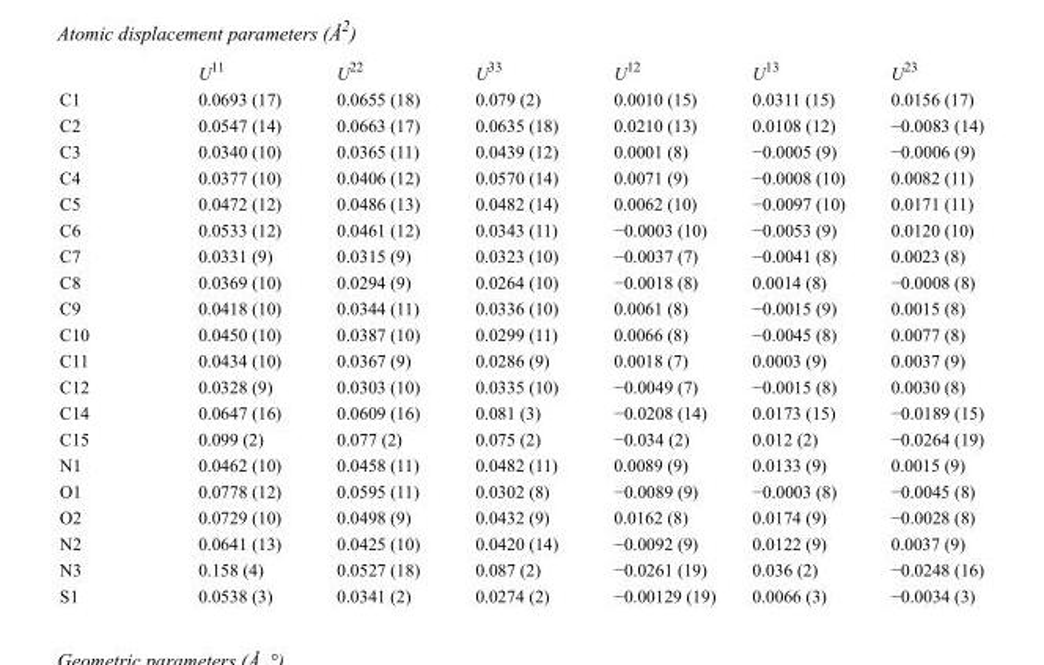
<table><thead><tr><td></td><td>U<sup>11</sup></td><td>U<sup>22</sup></td><td>U<sup>33</sup></td><td>U<sup>12</sup></td><td>U<sup>13</sup></td><td>U<sup>23</sup></td></tr></thead><tbody><tr><td>C1</td><td>0.0693 (17)</td><td>0.0655 (18)</td><td>0.079 (2)</td><td>0.0010 (15)</td><td>0.0311 (15)</td><td>0.0156 (17)</td></tr><tr><td>C2</td><td>0.0547 (14)</td><td>0.0663 (17)</td><td>0.0635 (18)</td><td>0.0210 (13)</td><td>0.0108 (12)</td><td>−0.0083 (14)</td></tr><tr><td>C3</td><td>0.0340 (10)</td><td>0.0365 (11)</td><td>0.0439 (12)</td><td>0.0001 (8)</td><td>−0.0005 (9)</td><td>−0.0006 (9)</td></tr><tr><td>C4</td><td>0.0377 (10)</td><td>0.0406 (12)</td><td>0.0570 (14)</td><td>0.0071 (9)</td><td>−0.0008 (10)</td><td>0.0082 (11)</td></tr><tr><td>C5</td><td>0.0472 (12)</td><td>0.0486 (13)</td><td>0.0482 (14)</td><td>0.0062 (10)</td><td>−0.0097 (10)</td><td>0.0171 (11)</td></tr><tr><td>C6</td><td>0.0533 (12)</td><td>0.0461 (12)</td><td>0.0343 (11)</td><td>−0.0003 (10)</td><td>−0.0053 (9)</td><td>0.0120 (10)</td></tr><tr><td>C7</td><td>0.0331 (9)</td><td>0.0315 (9)</td><td>0.0323 (10)</td><td>−0.0037 (7)</td><td>−0.0041 (8)</td><td>0.0023 (8)</td></tr><tr><td>C8</td><td>0.0369 (10)</td><td>0.0294 (9)</td><td>0.0264 (10)</td><td>−0.0018 (8)</td><td>0.0014 (8)</td><td>−0.0008 (8)</td></tr><tr><td>C9</td><td>0.0418 (10)</td><td>0.0344 (11)</td><td>0.0336 (10)</td><td>0.0061 (8)</td><td>−0.0015 (9)</td><td>0.0015 (8)</td></tr><tr><td>C10</td><td>0.0450 (10)</td><td>0.0387 (10)</td><td>0.0299 (11)</td><td>0.0066 (8)</td><td>−0.0045 (8)</td><td>0.0077 (8)</td></tr><tr><td>C11</td><td>0.0434 (10)</td><td>0.0367 (9)</td><td>0.0286 (9)</td><td>0.0018 (7)</td><td>0.0003 (9)</td><td>0.0037 (9)</td></tr><tr><td>C12</td><td>0.0328 (9)</td><td>0.0303 (10)</td><td>0.0335 (10)</td><td>−0.0049 (7)</td><td>−0.0015 (8)</td><td>0.0030 (8)</td></tr><tr><td>C14</td><td>0.0647 (16)</td><td>0.0609 (16)</td><td>0.081 (3)</td><td>−0.0208 (14)</td><td>0.0173 (15)</td><td>−0.0189 (15)</td></tr><tr><td>C15</td><td>0.099 (2)</td><td>0.077 (2)</td><td>0.075 (2)</td><td>−0.034 (2)</td><td>0.012 (2)</td><td>−0.0264 (19)</td></tr><tr><td>N1</td><td>0.0462 (10)</td><td>0.0458 (11)</td><td>0.0482 (11)</td><td>0.0089 (9)</td><td>0.0133 (9)</td><td>0.0015 (9)</td></tr><tr><td>O1</td><td>0.0778 (12)</td><td>0.0595 (11)</td><td>0.0302 (8)</td><td>−0.0089 (9)</td><td>−0.0003 (8)</td><td>−0.0045 (8)</td></tr><tr><td>O2</td><td>0.0729 (10)</td><td>0.0498 (9)</td><td>0.0432 (9)</td><td>0.0162 (8)</td><td>0.0174 (9)</td><td>−0.0028 (8)</td></tr><tr><td>N2</td><td>0.0641 (13)</td><td>0.0425 (10)</td><td>0.0420 (14)</td><td>−0.0092 (9)</td><td>0.0122 (9)</td><td>0.0037 (9)</td></tr><tr><td>N3</td><td>0.158 (4)</td><td>0.0527 (18)</td><td>0.087 (2)</td><td>−0.0261 (19)</td><td>0.036 (2)</td><td>−0.0248 (16)</td></tr><tr><td>S1</td><td>0.0538 (3)</td><td>0.0341 (2)</td><td>0.0274 (2)</td><td>−0.00129 (19)</td><td>0.0066 (3)</td><td>−0.0034 (3)</td></tr></tbody></table>